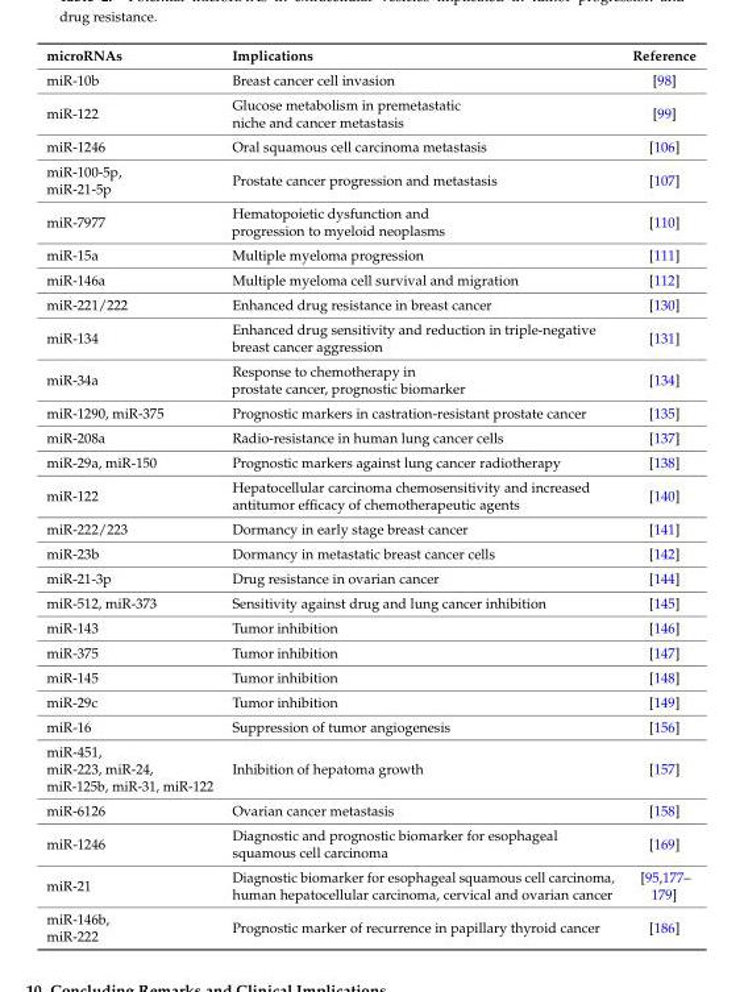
<table><thead><tr><td>microRNAs</td><td>Implications</td><td>Reference</td></tr></thead><tbody><tr><td>miR-10b</td><td>Breast cancer cell invasion</td><td>[98]</td></tr><tr><td>miR-122</td><td>Glucose metabolism in premetastatic niche and cancer metastasis</td><td>[99]</td></tr><tr><td>miR-1246</td><td>Oral squamous cell carcinoma metastasis</td><td>[106]</td></tr><tr><td>miR-100-5p, miR-21-5p</td><td>Prostate cancer progression and metastasis</td><td>[107]</td></tr><tr><td>miR-7977</td><td>Hematopoietic dysfunction and progression to myeloid neoplasms</td><td>[110]</td></tr><tr><td>miR-15a</td><td>Multiple myeloma progression</td><td>[111]</td></tr><tr><td>miR-146a</td><td>Multiple myeloma cell survival and migration</td><td>[112]</td></tr><tr><td>miR-221/222</td><td>Enhanced drug resistance in breast cancer</td><td>[130]</td></tr><tr><td>miR-134</td><td>Enhanced drug sensitivity and reduction in triple-negative breast cancer aggression</td><td>[131]</td></tr><tr><td>miR-34a</td><td>Response to chemotherapy in prostate cancer, prognostic biomarker</td><td>[134]</td></tr><tr><td>miR-1290, miR-375</td><td>Prognostic markers in castration-resistant prostate cancer</td><td>[135]</td></tr><tr><td>miR-208a</td><td>Radio-resistance in human lung cancer cells</td><td>[137]</td></tr><tr><td>miR-29a, miR-150</td><td>Prognostic markers against lung cancer radiotherapy</td><td>[138]</td></tr><tr><td>miR-122</td><td>Hepatocellular carcinoma chemosensitivity and increased antitumor efficacy of chemotherapeutic agents</td><td>[140]</td></tr><tr><td>miR-222/223</td><td>Dormancy in early stage breast cancer</td><td>[141]</td></tr><tr><td>miR-23b</td><td>Dormancy in metastatic breast cancer cells</td><td>[142]</td></tr><tr><td>miR-21-3p</td><td>Drug resistance in ovarian cancer</td><td>[144]</td></tr><tr><td>miR-512, miR-373</td><td>Sensitivity against drug and lung cancer inhibition</td><td>[145]</td></tr><tr><td>miR-143</td><td>Tumor inhibition</td><td>[146]</td></tr><tr><td>miR-375</td><td>Tumor inhibition</td><td>[147]</td></tr><tr><td>miR-145</td><td>Tumor inhibition</td><td>[148]</td></tr><tr><td>miR-29c</td><td>Tumor inhibition</td><td>[149]</td></tr><tr><td>miR-16</td><td>Suppression of tumor angiogenesis</td><td>[156]</td></tr><tr><td>miR-451, miR-223, miR-24, miR-125b, miR-31, miR-122</td><td>Inhibition of hepatoma growth</td><td>[157]</td></tr><tr><td>miR-6126</td><td>Ovarian cancer metastasis</td><td>[158]</td></tr><tr><td>miR-1246</td><td>Diagnostic and prognostic biomarker for esophageal squamous cell carcinoma</td><td>[169]</td></tr><tr><td>miR-21</td><td>Diagnostic biomarker for esophageal squamous cell carcinoma, human hepatocellular carcinoma, cervical and ovarian cancer</td><td>[95,177– 179]</td></tr><tr><td>miR-146b, miR-222</td><td>Prognostic marker of recurrence in papillary thyroid cancer</td><td>[186]</td></tr></tbody></table>